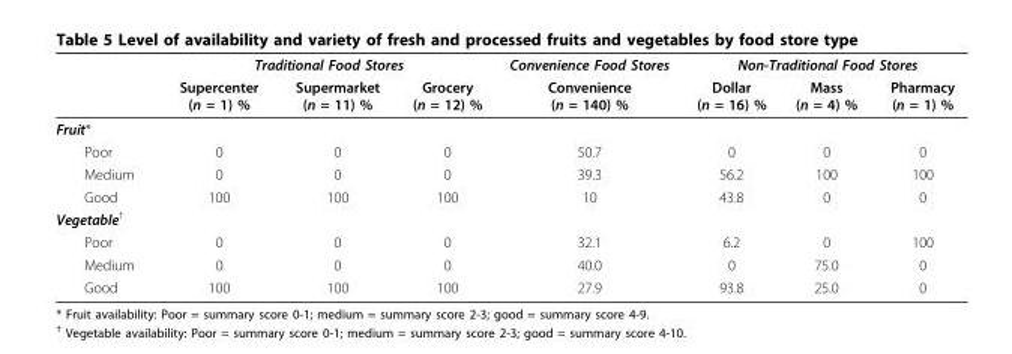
<table><thead><tr><td rowspan="2"></td><td colspan="3">Traditional Food Stores</td><td rowspan="2">Convenience Food Stores Convenience (n = 140) %</td><td colspan="3">Non-Traditional Food Stores</td></tr><tr><td>Supercenter (n = 1) %</td><td>Supermarket (n = 11) %</td><td>Grocery (n = 12) %</td><td>Dollar (n = 16) %</td><td>Mass (n = 4) %</td><td>Pharmacy (n = 1) %</td></tr></thead><tbody><tr><td colspan="8">Fruit*</td></tr><tr><td>Poor</td><td>0</td><td>0</td><td>0</td><td>50.7</td><td>0</td><td>0</td><td>0</td></tr><tr><td>Medium</td><td>0</td><td>0</td><td>0</td><td>39.3</td><td>56.2</td><td>100</td><td>100</td></tr><tr><td>Good</td><td>100</td><td>100</td><td>100</td><td>10</td><td>43.8</td><td>0</td><td>0</td></tr><tr><td colspan="8">Vegetable<sup>†</sup></td></tr><tr><td>Poor</td><td>0</td><td>0</td><td>0</td><td>32.1</td><td>6.2</td><td>0</td><td>100</td></tr><tr><td>Medium</td><td>0</td><td>0</td><td>0</td><td>40.0</td><td>0</td><td>75.0</td><td>0</td></tr><tr><td>Good</td><td>100</td><td>100</td><td>100</td><td>27.9</td><td>93.8</td><td>25.0</td><td>0</td></tr></tbody></table>